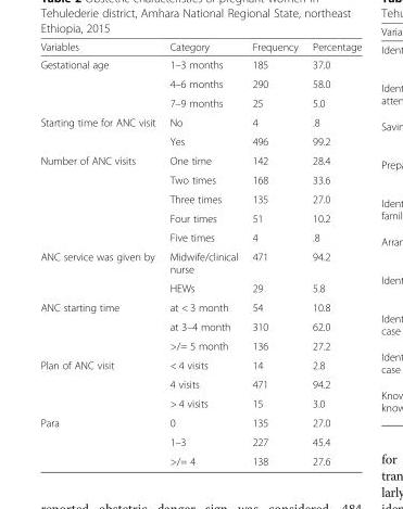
<table><thead><tr><td>Variables</td><td>Category</td><td>Frequency</td><td>Percentage</td></tr></thead><tbody><tr><td rowspan="3">Gestational age</td><td>1–3 months</td><td>185</td><td>37.0</td></tr><tr><td>4–6 months</td><td>290</td><td>58.0</td></tr><tr><td>7–9 months</td><td>25</td><td>5.0</td></tr><tr><td rowspan="2">Starting time for ANC visit</td><td>No</td><td>4</td><td>.8</td></tr><tr><td>Yes</td><td>496</td><td>99.2</td></tr><tr><td rowspan="5">Number of ANC visits</td><td>One time</td><td>142</td><td>28.4</td></tr><tr><td>Two times</td><td>168</td><td>33.6</td></tr><tr><td>Three times</td><td>135</td><td>27.0</td></tr><tr><td>Four times</td><td>51</td><td>10.2</td></tr><tr><td>Five times</td><td>4</td><td>.8</td></tr><tr><td rowspan="2">ANC service was given by</td><td>Midwife/clinical nurse</td><td>471</td><td>94.2</td></tr><tr><td>HEWs</td><td>29</td><td>5.8</td></tr><tr><td rowspan="3">ANC starting time</td><td>at &lt; 3 month</td><td>54</td><td>10.8</td></tr><tr><td>at 3–4 month</td><td>310</td><td>62.0</td></tr><tr><td>&gt;/= 5 month</td><td>136</td><td>27.2</td></tr><tr><td rowspan="3">Plan of ANC visit</td><td>&lt; 4 visits</td><td>14</td><td>2.8</td></tr><tr><td>4 visits</td><td>471</td><td>94.2</td></tr><tr><td>&gt; 4 visits</td><td>15</td><td>3.0</td></tr><tr><td rowspan="3">Para</td><td>0</td><td>135</td><td>27.0</td></tr><tr><td>1–3</td><td>227</td><td>45.4</td></tr><tr><td>&gt;/= 4</td><td>138</td><td>27.6</td></tr></tbody></table>